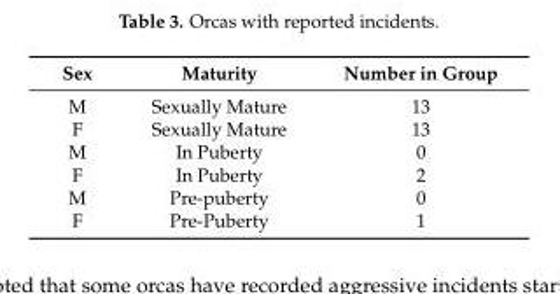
<table><thead><tr><td>Sex</td><td>Maturity</td><td>Number in Group</td></tr></thead><tbody><tr><td>M</td><td>Sexually Mature</td><td>13</td></tr><tr><td>F</td><td>Sexually Mature</td><td>13</td></tr><tr><td>M</td><td>In Puberty</td><td>0</td></tr><tr><td>F</td><td>In Puberty</td><td>2</td></tr><tr><td>M</td><td>Pre-puberty</td><td>0</td></tr><tr><td>F</td><td>Pre-Puberty</td><td>1</td></tr></tbody></table>